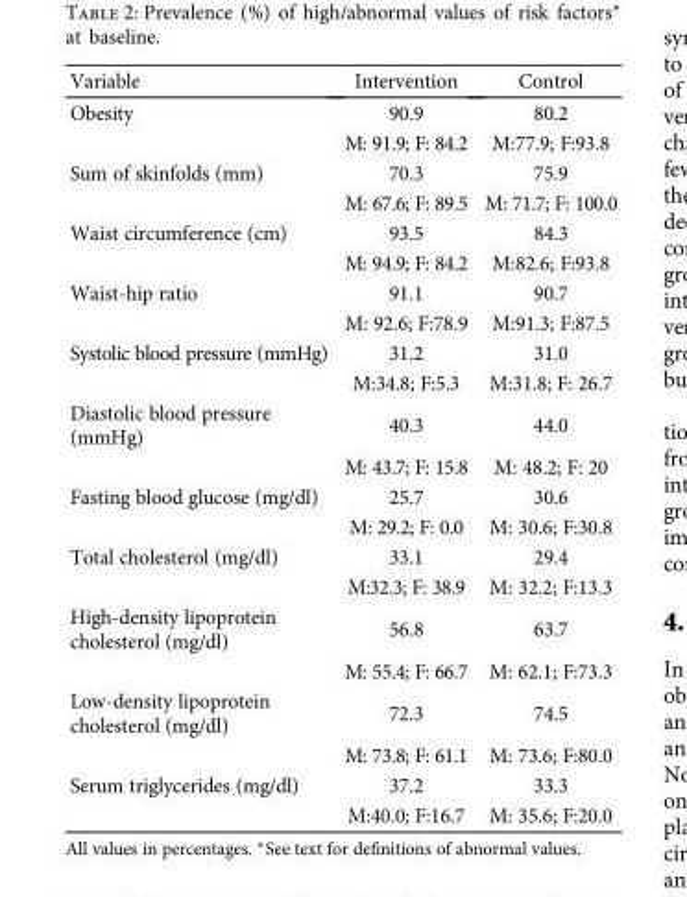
<table><thead><tr><td>Variable</td><td>Intervention</td><td>Control</td></tr></thead><tbody><tr><td rowspan="2">Obesity</td><td>90.9</td><td>80.2</td></tr><tr><td>M: 91.9; F: 84.2</td><td>M:77.9; F:93.8</td></tr><tr><td rowspan="2">Sum of skinfolds (mm)</td><td>70.3</td><td>75.9</td></tr><tr><td>M: 67.6; F: 89.5</td><td>M: 71.7; F: 100.0</td></tr><tr><td rowspan="2">Waist circumference (cm)</td><td>93.5</td><td>84.3</td></tr><tr><td>M: 94.9; F: 84.2</td><td>M:82.6; F:93.8</td></tr><tr><td rowspan="2">Waist-hip ratio</td><td>91.1</td><td>90.7</td></tr><tr><td>M: 92.6; F:78.9</td><td>M:91.3; F:87.5</td></tr><tr><td rowspan="2">Systolic blood pressure (mmHg)</td><td>31.2</td><td>31.0</td></tr><tr><td>M:34.8; F:5.3</td><td>M:31.8; F: 26.7</td></tr><tr><td rowspan="2">Diastolic blood pressure (mmHg)</td><td>40.3</td><td>44.0</td></tr><tr><td>M: 43.7; F: 15.8</td><td>M: 48.2; F: 20</td></tr><tr><td rowspan="2">Fasting blood glucose (mg/dl)</td><td>25.7</td><td>30.6</td></tr><tr><td>M: 29.2; F: 0.0</td><td>M: 30.6; F:30.8</td></tr><tr><td rowspan="2">Total cholesterol (mg/dl)</td><td>33.1</td><td>29.4</td></tr><tr><td>M:32.3; F: 38.9</td><td>M: 32.2; F:13.3</td></tr><tr><td rowspan="2">High-density lipoprotein cholesterol (mg/dl)</td><td>56.8</td><td>63.7</td></tr><tr><td>M: 55.4; F: 66.7</td><td>M: 62.1; F:73.3</td></tr><tr><td rowspan="2">Low-density lipoprotein cholesterol (mg/dl)</td><td>72.3</td><td>74.5</td></tr><tr><td>M: 73.8; F: 61.1</td><td>M: 73.6; F:80.0</td></tr><tr><td rowspan="2">Serum triglycerides (mg/dl)</td><td>37.2</td><td>33.3</td></tr><tr><td>M:40.0; F:16.7</td><td>M: 35.6; F:20.0</td></tr></tbody></table>